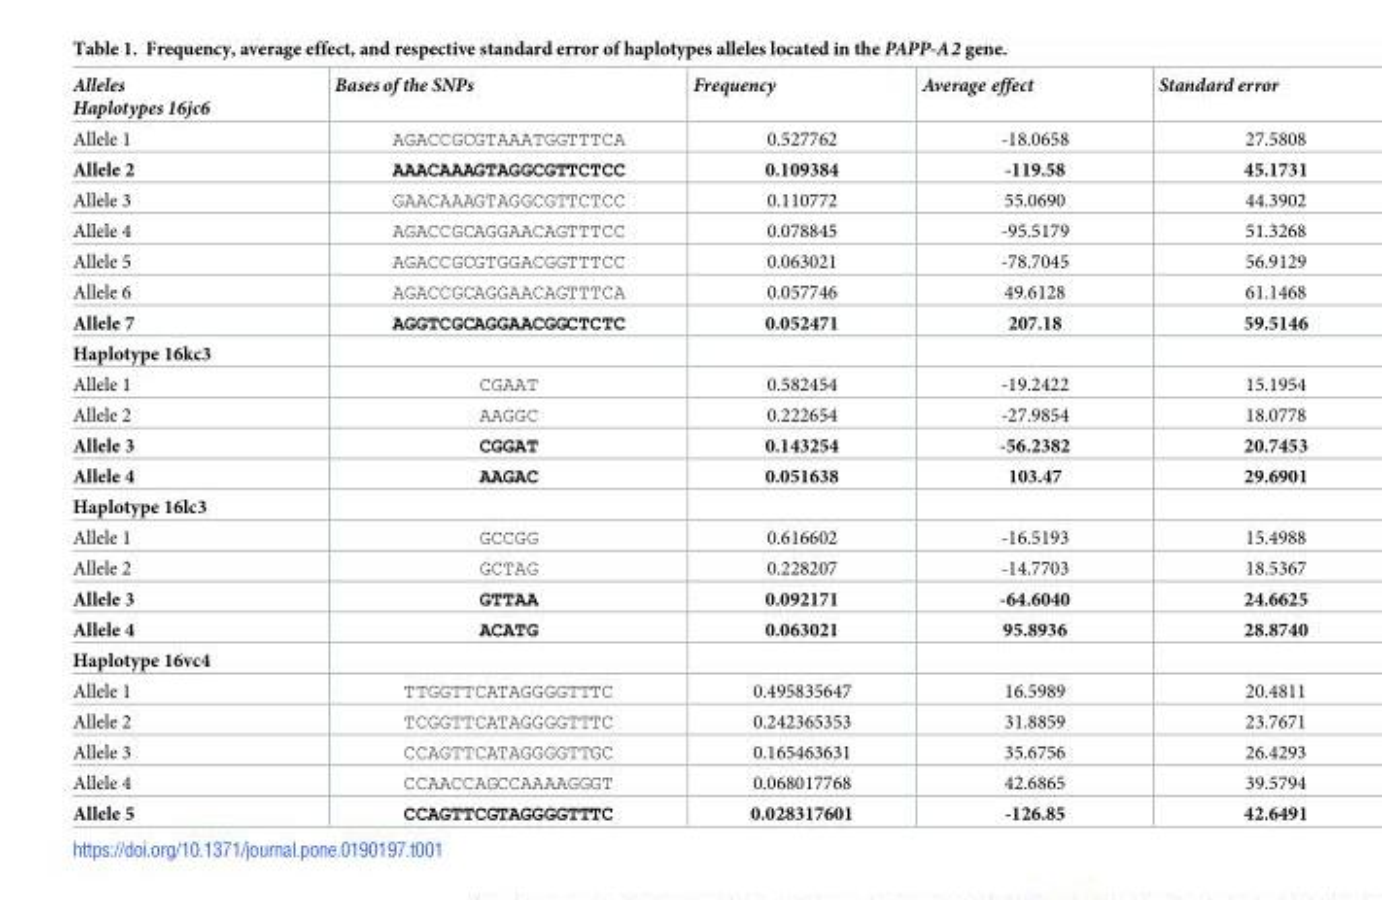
<table><thead><tr><td>Alleles Haplotypes 16jc6</td><td>Bases of the SNPs</td><td>Frequency</td><td>Average effect</td><td>Standard error</td></tr></thead><tbody><tr><td>Allele 1</td><td>AGACCGCGTAAATGGTTTCA</td><td>0.527762</td><td>-18.0658</td><td>27.5808</td></tr><tr><td>Allele 2</td><td>AAACAAAGTAGGCGTTCTCC</td><td>0.109384</td><td>-119.58</td><td>45.1731</td></tr><tr><td>Allele 3</td><td>GAACAAAGTAGGCGTTCTCC</td><td>0.110772</td><td>55.0690</td><td>44.3902</td></tr><tr><td>Allele 4</td><td>AGACCGCAGGAACAGTTTCC</td><td>0.078845</td><td>-95.5179</td><td>51.3268</td></tr><tr><td>Allele 5</td><td>AGACCGCGTGGACGGTTTCC</td><td>0.063021</td><td>-78.7045</td><td>56.9129</td></tr><tr><td>Allele 6</td><td>AGACCGCAGGAACAGTTTCA</td><td>0.057746</td><td>49.6128</td><td>61.1468</td></tr><tr><td>Allele 7</td><td>AGGTCGCAGGAACGGCTCTC</td><td>0.052471</td><td>207.18</td><td>59.5146</td></tr><tr><td colspan="5">Haplotype 16kc3</td></tr><tr><td>Allele 1</td><td>CGAAT</td><td>0.582454</td><td>-19.2422</td><td>15.1954</td></tr><tr><td>Allele 2</td><td>AAGGC</td><td>0.222654</td><td>-27.9854</td><td>18.0778</td></tr><tr><td>Allele 3</td><td>CGGAT</td><td>0.143254</td><td>-56.2382</td><td>20.7453</td></tr><tr><td>Allele 4</td><td>AAGAC</td><td>0.051638</td><td>103.47</td><td>29.6901</td></tr><tr><td colspan="5">Haplotype 16lc3</td></tr><tr><td>Allele 1</td><td>GCCGG</td><td>0.616602</td><td>-16.5193</td><td>15.4988</td></tr><tr><td>Allele 2</td><td>GCTAG</td><td>0.228207</td><td>-14.7703</td><td>18.5367</td></tr><tr><td>Allele 3</td><td>GTTAA</td><td>0.092171</td><td>-64.6040</td><td>24.6625</td></tr><tr><td>Allele 4</td><td>ACATG</td><td>0.063021</td><td>95.8936</td><td>28.8740</td></tr><tr><td colspan="5">Haplotype 16vc4</td></tr><tr><td>Allele 1</td><td>TTGGTTCATAGGGGTTTC</td><td>0.495835647</td><td>16.5989</td><td>20.4811</td></tr><tr><td>Allele 2</td><td>TCGGTTCATAGGGGTTTC</td><td>0.242365353</td><td>31.8859</td><td>23.7671</td></tr><tr><td>Allele 3</td><td>CCAGTTCATAGGGGTTGC</td><td>0.165463631</td><td>35.6756</td><td>26.4293</td></tr><tr><td>Allele 4</td><td>CCAACCAGCCAAAAGGGT</td><td>0.068017768</td><td>42.6865</td><td>39.5794</td></tr><tr><td>Allele 5</td><td>CCAGTTCGTAGGGGTTTC</td><td>0.028317601</td><td>-126.85</td><td>42.6491</td></tr></tbody></table>